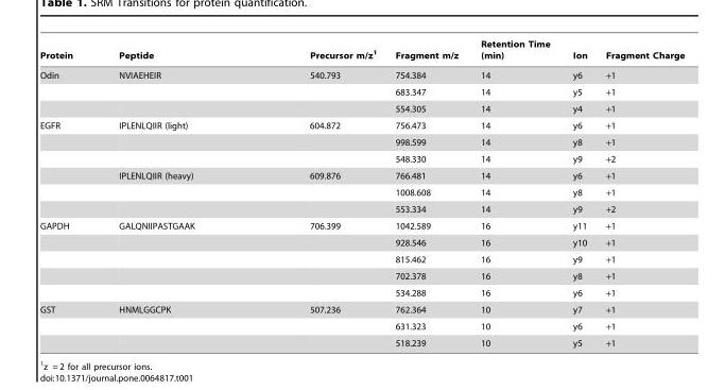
<table><thead><tr><td>Protein</td><td>Peptide</td><td>Precursor m/z<sup>1</sup></td><td>Fragment m/z</td><td>Retention Time (min)</td><td>Ion</td><td>Fragment Charge</td></tr></thead><tbody><tr><td rowspan="3">Odin</td><td>NVIAEHEIR</td><td>540.793</td><td>754.384</td><td>14</td><td>y6</td><td>+1</td></tr><tr><td></td><td></td><td>683.347</td><td>14</td><td>y5</td><td>+1</td></tr><tr><td></td><td></td><td>554.305</td><td>14</td><td>y4</td><td>+1</td></tr><tr><td rowspan="6">EGFR</td><td>IPLENLQIIR (light)</td><td>604.872</td><td>756.473</td><td>14</td><td>y6</td><td>+1</td></tr><tr><td></td><td></td><td>998.599</td><td>14</td><td>y8</td><td>+1</td></tr><tr><td></td><td></td><td>548.330</td><td>14</td><td>y9</td><td>+2</td></tr><tr><td>IPLENLQIIR (heavy)</td><td>609.876</td><td>766.481</td><td>14</td><td>y6</td><td>+1</td></tr><tr><td></td><td></td><td>1008.608</td><td>14</td><td>y8</td><td>+1</td></tr><tr><td></td><td></td><td>553.334</td><td>14</td><td>y9</td><td>+2</td></tr><tr><td rowspan="5">GAPDH</td><td>GALQNIIPASTGAAK</td><td>706.399</td><td>1042.589</td><td>16</td><td>y11</td><td>+1</td></tr><tr><td></td><td></td><td>928.546</td><td>16</td><td>y10</td><td>+1</td></tr><tr><td></td><td></td><td>815.462</td><td>16</td><td>y9</td><td>+1</td></tr><tr><td></td><td></td><td>702.378</td><td>16</td><td>y8</td><td>+1</td></tr><tr><td></td><td></td><td>534.288</td><td>16</td><td>y6</td><td>+1</td></tr><tr><td rowspan="3">GST</td><td>HNMLGGCPK</td><td>507.236</td><td>762.364</td><td>10</td><td>y7</td><td>+1</td></tr><tr><td></td><td></td><td>631.323</td><td>10</td><td>y6</td><td>+1</td></tr><tr><td></td><td></td><td>518.239</td><td>10</td><td>y5</td><td>+1</td></tr></tbody></table>